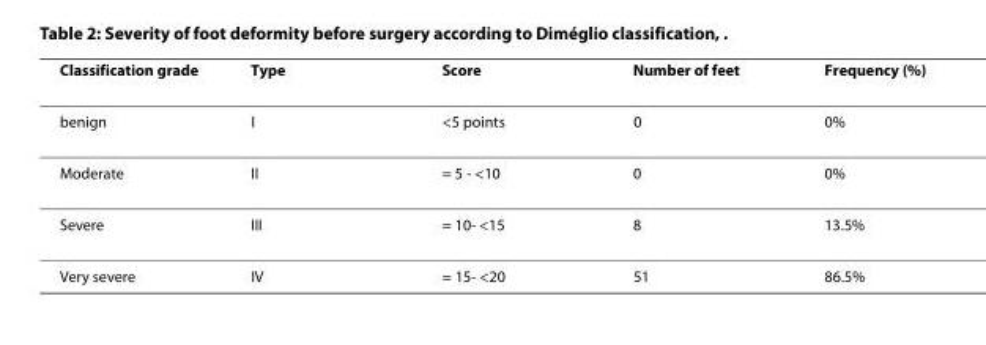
<table><thead><tr><td>Classification grade</td><td>Type</td><td>Score</td><td>Number of feet</td><td>Frequency (%)</td></tr></thead><tbody><tr><td>benign</td><td>I</td><td>&lt;5 points</td><td>0</td><td>0%</td></tr><tr><td>Moderate</td><td>II</td><td>= 5 - &lt;10</td><td>0</td><td>0%</td></tr><tr><td>Severe</td><td>III</td><td>= 10- &lt;15</td><td>8</td><td>13.5%</td></tr><tr><td>Very severe</td><td>IV</td><td>= 15- &lt;20</td><td>51</td><td>86.5%</td></tr></tbody></table>